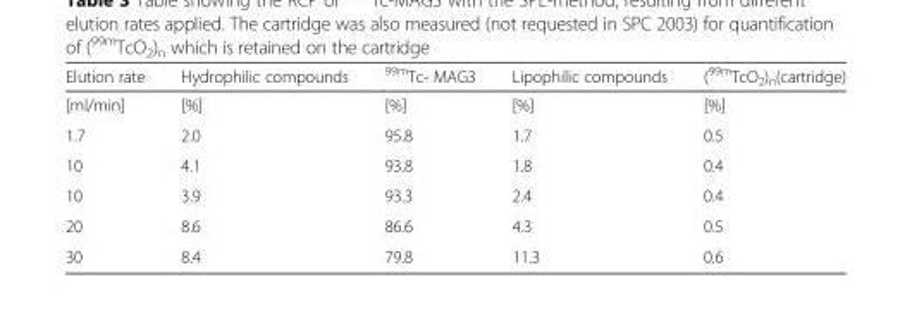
<table><thead><tr><td>Elution rate</td><td>Hydrophilic compounds</td><td><sup>99m</sup>Tc- MAG3</td><td>Lipophilic compounds</td><td>(<sup>99m</sup>TcO<sub>2</sub>)<sub>n</sub>(cartridge)</td></tr></thead><tbody><tr><td>[ml/min]</td><td>[%]</td><td>[%]</td><td>[%]</td><td>[%]</td></tr><tr><td>1.7</td><td>2.0</td><td>95.8</td><td>1.7</td><td>0.5</td></tr><tr><td>10</td><td>4.1</td><td>93.8</td><td>1.8</td><td>0.4</td></tr><tr><td>10</td><td>3.9</td><td>93.3</td><td>2.4</td><td>0.4</td></tr><tr><td>20</td><td>8.6</td><td>86.6</td><td>4.3</td><td>0.5</td></tr><tr><td>30</td><td>8.4</td><td>79.8</td><td>11.3</td><td>0.6</td></tr></tbody></table>